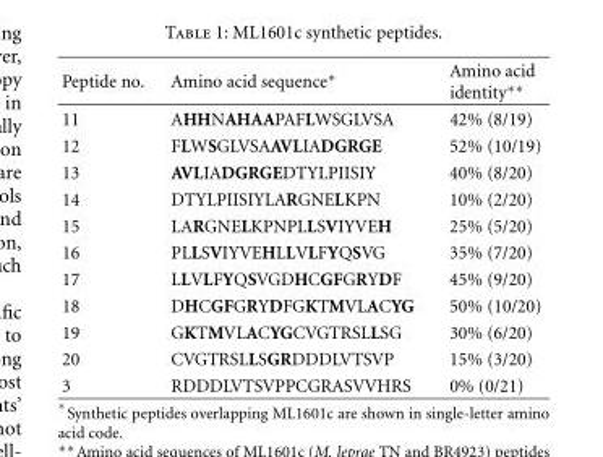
<table><thead><tr><td>Peptide no.</td><td>Amino acid sequence∗</td><td>Amino acid identity∗∗</td></tr></thead><tbody><tr><td>11</td><td>AHHNAHAAPAFLWSGLVSA</td><td>42% (8/19)</td></tr><tr><td>12</td><td>FLWSGLVSAAVLIADGRGE</td><td>52% (10/19)</td></tr><tr><td>13</td><td>AVLIADGRGEDTYLPIISIY</td><td>40% (8/20)</td></tr><tr><td>14</td><td>DTYLPIISIYLARGNELKPN</td><td>10% (2/20)</td></tr><tr><td>15</td><td>LARGNELKPNPLLSVIYVEH</td><td>25% (5/20)</td></tr><tr><td>16</td><td>PLLSVIYVEHLLVLFYQSVG</td><td>35% (7/20)</td></tr><tr><td>17</td><td>LLVLFYQSVGDHCGFGRYDF</td><td>45% (9/20)</td></tr><tr><td>18</td><td>DHCGFGRYDFGKTMVLACYG</td><td>50% (10/20)</td></tr><tr><td>19</td><td>GKTMVLACYGCVGTRSLLSG</td><td>30% (6/20)</td></tr><tr><td>20</td><td>CVGTRSLLSGRDDDLVTSVP</td><td>15% (3/20)</td></tr><tr><td>3</td><td>RDDDLVTSVPPCGRASVVHRS</td><td>0% (0/21)</td></tr></tbody></table>